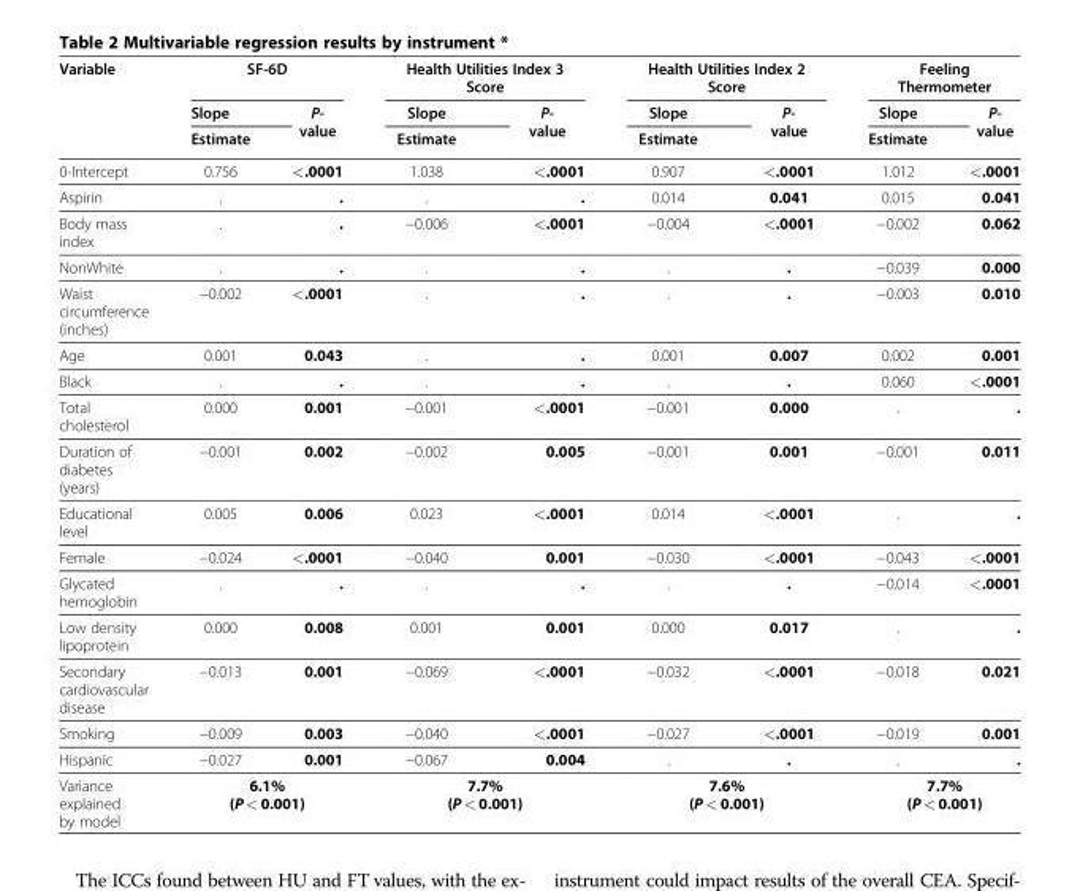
<table><thead><tr><td rowspan="3">Variable</td><td colspan="2">SF-6D</td><td colspan="2">Health Utilities Index 3 Score</td><td colspan="2">Health Utilities Index 2 Score</td><td colspan="2">Feeling Thermometer</td></tr><tr><td rowspan="2">Slope Estimate</td><td rowspan="2">P- value</td><td rowspan="2">Slope Estimate</td><td rowspan="2">P- value</td><td rowspan="2">Slope Estimate</td><td rowspan="2">P- value</td><td rowspan="2">Slope Estimate</td><td rowspan="2">P- value</td></tr><tr></tr></thead><tbody><tr><td>0-Intercept</td><td>0.756</td><td>&lt;.0001</td><td>1.038</td><td>&lt;.0001</td><td>0.907</td><td>&lt;.0001</td><td>1.012</td><td>&lt;.0001</td></tr><tr><td>Aspirin</td><td>.</td><td>.</td><td>.</td><td>.</td><td>0.014</td><td>0.041</td><td>0.015</td><td>0.041</td></tr><tr><td>Body mass index</td><td>.</td><td>.</td><td>−0.006</td><td>&lt;.0001</td><td>−0.004</td><td>&lt;.0001</td><td>−0.002</td><td>0.062</td></tr><tr><td>NonWhite</td><td>.</td><td>.</td><td>.</td><td>.</td><td>.</td><td>.</td><td>−0.039</td><td>0.000</td></tr><tr><td>Waist circumference (inches)</td><td>−0.002</td><td>&lt;.0001</td><td>.</td><td>.</td><td>.</td><td>.</td><td>−0.003</td><td>0.010</td></tr><tr><td>Age</td><td>0.001</td><td>0.043</td><td>.</td><td>.</td><td>0.001</td><td>0.007</td><td>0.002</td><td>0.001</td></tr><tr><td>Black</td><td>.</td><td>.</td><td>.</td><td>.</td><td>.</td><td>.</td><td>0.060</td><td>&lt;.0001</td></tr><tr><td>Total cholesterol</td><td>0.000</td><td>0.001</td><td>−0.001</td><td>&lt;.0001</td><td>−0.001</td><td>0.000</td><td>.</td><td>.</td></tr><tr><td>Duration of diabetes (years)</td><td>−0.001</td><td>0.002</td><td>−0.002</td><td>0.005</td><td>−0.001</td><td>0.001</td><td>−0.001</td><td>0.011</td></tr><tr><td>Educational level</td><td>0.005</td><td>0.006</td><td>0.023</td><td>&lt;.0001</td><td>0.014</td><td>&lt;.0001</td><td>.</td><td>.</td></tr><tr><td>Female</td><td>−0.024</td><td>&lt;.0001</td><td>−0.040</td><td>0.001</td><td>−0.030</td><td>&lt;.0001</td><td>−0.043</td><td>&lt;.0001</td></tr><tr><td>Glycated hemoglobin</td><td>.</td><td>.</td><td>.</td><td>.</td><td>.</td><td>.</td><td>−0.014</td><td>&lt;.0001</td></tr><tr><td>Low density lipoprotein</td><td>0.000</td><td>0.008</td><td>0.001</td><td>0.001</td><td>0.000</td><td>0.017</td><td>.</td><td>.</td></tr><tr><td>Secondary cardiovascular disease</td><td>−0.013</td><td>0.001</td><td>−0.069</td><td>&lt;.0001</td><td>−0.032</td><td>&lt;.0001</td><td>−0.018</td><td>0.021</td></tr><tr><td>Smoking</td><td>−0.009</td><td>0.003</td><td>−0.040</td><td>&lt;.0001</td><td>−0.027</td><td>&lt;.0001</td><td>−0.019</td><td>0.001</td></tr><tr><td>Hispanic</td><td>−0.027</td><td>0.001</td><td>−0.067</td><td>0.004</td><td>.</td><td>.</td><td>.</td><td>.</td></tr><tr><td>Variance explained by model</td><td colspan="2">6.1% (P &lt; 0.001)</td><td colspan="2">7.7% (P &lt; 0.001)</td><td colspan="2">7.6% (P &lt; 0.001)</td><td colspan="2">7.7% (P &lt; 0.001)</td></tr></tbody></table>